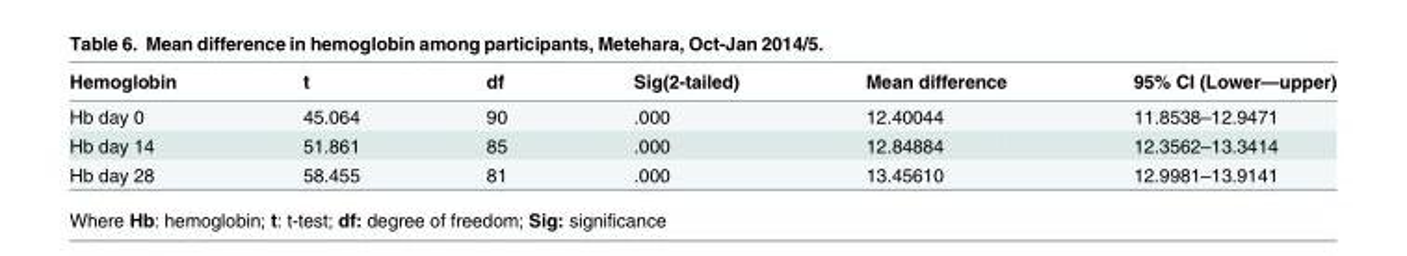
<table><thead><tr><td>Hemoglobin</td><td>t</td><td>df</td><td>Sig(2-tailed)</td><td>Mean difference</td><td>95% CI (Lower—upper)</td></tr></thead><tbody><tr><td>Hb day 0</td><td>45.064</td><td>90</td><td>.000</td><td>12.40044</td><td>11.8538–12.9471</td></tr><tr><td>Hb day 14</td><td>51.861</td><td>85</td><td>.000</td><td>12.84884</td><td>12.3562–13.3414</td></tr><tr><td>Hb day 28</td><td>58.455</td><td>81</td><td>.000</td><td>13.45610</td><td>12.9981–13.9141</td></tr></tbody></table>